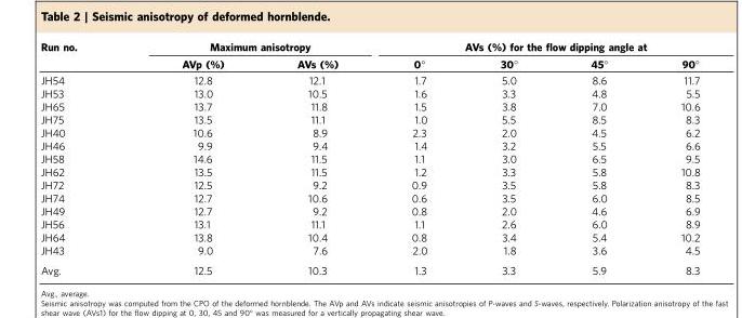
<table><thead><tr><td rowspan="2">Run no.</td><td colspan="2">Maximum anisotropy</td><td colspan="4">AVs (%) for the flow dipping angle at</td></tr><tr><td>AVp (%)</td><td>AVs (%)</td><td>0°</td><td>30°</td><td>45°</td><td>90°</td></tr></thead><tbody><tr><td>JH54</td><td>12.8</td><td>12.1</td><td>1.7</td><td>5.0</td><td>8.6</td><td>11.7</td></tr><tr><td>JH53</td><td>13.0</td><td>10.5</td><td>1.6</td><td>3.3</td><td>4.8</td><td>5.5</td></tr><tr><td>JH65</td><td>13.7</td><td>11.8</td><td>1.5</td><td>3.8</td><td>7.0</td><td>10.6</td></tr><tr><td>JH75</td><td>13.5</td><td>11.1</td><td>1.0</td><td>5.5</td><td>8.5</td><td>8.3</td></tr><tr><td>JH40</td><td>10.6</td><td>8.9</td><td>2.3</td><td>2.0</td><td>4.5</td><td>6.2</td></tr><tr><td>JH46</td><td>9.9</td><td>9.4</td><td>1.4</td><td>3.2</td><td>5.5</td><td>6.6</td></tr><tr><td>JH58</td><td>14.6</td><td>11.5</td><td>1.1</td><td>3.0</td><td>6.5</td><td>9.5</td></tr><tr><td>JH62</td><td>13.5</td><td>11.5</td><td>1.2</td><td>3.3</td><td>5.8</td><td>10.8</td></tr><tr><td>JH72</td><td>12.5</td><td>9.2</td><td>0.9</td><td>3.5</td><td>5.8</td><td>8.3</td></tr><tr><td>JH74</td><td>12.7</td><td>10.6</td><td>0.6</td><td>3.5</td><td>6.0</td><td>8.5</td></tr><tr><td>JH49</td><td>12.7</td><td>9.2</td><td>0.8</td><td>2.0</td><td>4.6</td><td>6.9</td></tr><tr><td>JH56</td><td>13.1</td><td>11.1</td><td>1.1</td><td>2.6</td><td>6.0</td><td>8.9</td></tr><tr><td>JH64</td><td>13.8</td><td>10.4</td><td>0.8</td><td>3.4</td><td>5.4</td><td>10.2</td></tr><tr><td>JH43</td><td>9.0</td><td>7.6</td><td>2.0</td><td>1.8</td><td>3.6</td><td>4.5</td></tr><tr><td>Avg.</td><td>12.5</td><td>10.3</td><td>1.3</td><td>3.3</td><td>5.9</td><td>8.3</td></tr></tbody></table>